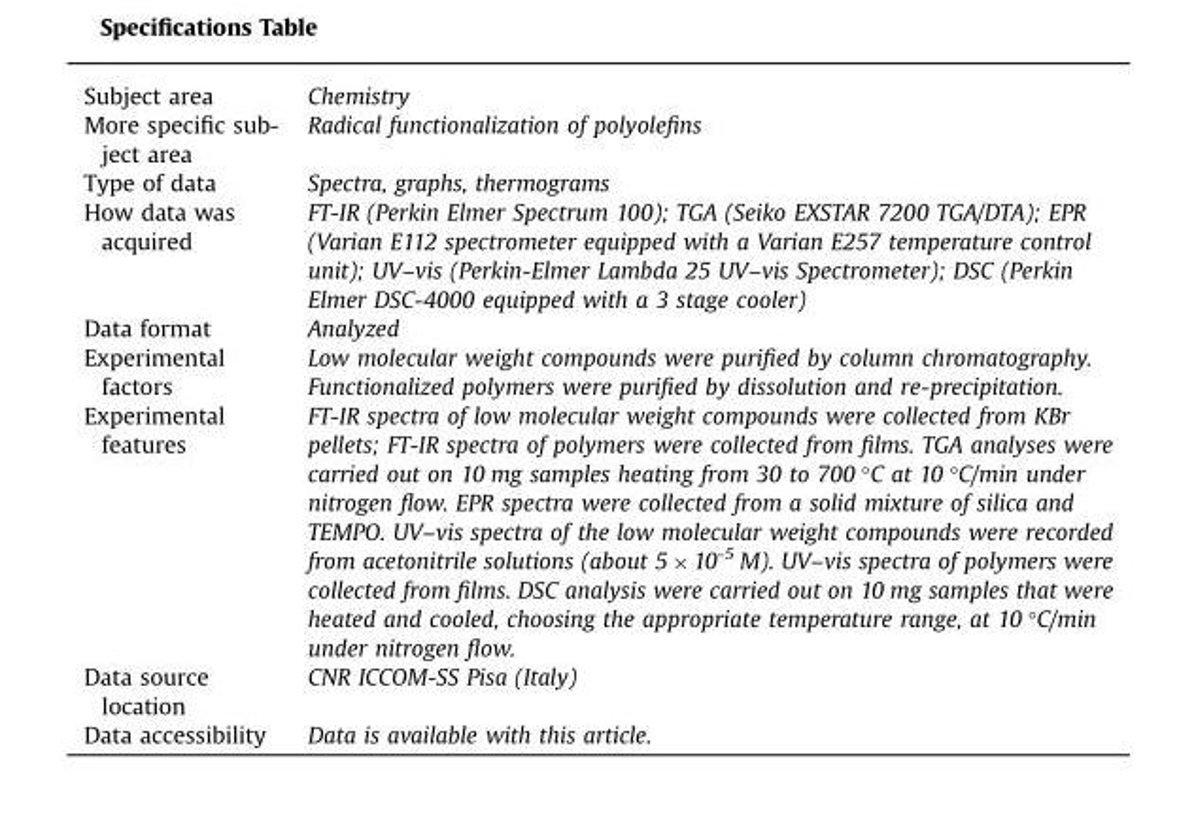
<table><tbody><tr><td>Subject area</td><td>Chemistry</td></tr><tr><td>More specific sub- ject area</td><td>Radical functionalization of polyolefins</td></tr><tr><td>Type of data</td><td>Spectra, graphs, thermograms</td></tr><tr><td>How data was acquired</td><td>FT-IR (Perkin Elmer Spectrum 100); TGA (Seiko EXSTAR 7200 TGA/DTA); EPR (Varian E112 spectrometer equipped with a Varian E257 temperature control unit); UV–vis (Perkin-Elmer Lambda 25 UV–vis Spectrometer); DSC (Perkin Elmer DSC-4000 equipped with a 3 stage cooler)</td></tr><tr><td>Data format</td><td>Analyzed</td></tr><tr><td>Experimental factors</td><td>Low molecular weight compounds were purified by column chromatography. Functionalized polymers were purified by dissolution and re-precipitation.</td></tr><tr><td>Experimental features</td><td>FT-IR spectra of low molecular weight compounds were collected from KBr pellets; FT-IR spectra of polymers were collected from films. TGA analyses were carried out on 10 mg samples heating from 30 to 700 °C at 10 °C/min under nitrogen flow. EPR spectra were collected from a solid mixture of silica and TEMPO. UV–vis spectra of the low molecular weight compounds were recorded from acetonitrile solutions (about 5 × 10<sup>-5</sup> M). UV–vis spectra of polymers were collected from films. DSC analysis were carried out on 10 mg samples that were heated and cooled, choosing the appropriate temperature range, at 10 °C/min under nitrogen flow.</td></tr><tr><td>Data source location</td><td>CNR ICCOM-SS Pisa (Italy)</td></tr><tr><td>Data accessibility</td><td>Data is available with this article.</td></tr></tbody></table>